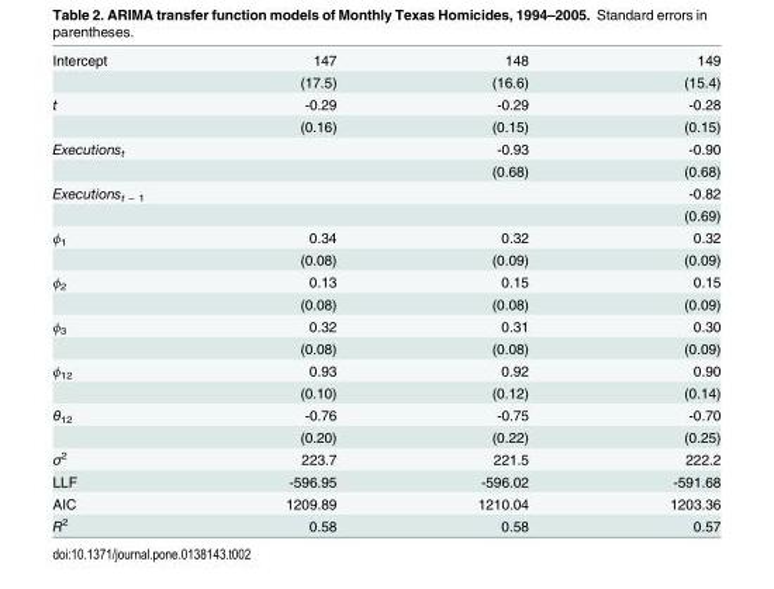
<table><tbody><tr><td rowspan="2">Intercept</td><td>147</td><td>148</td><td>149</td></tr><tr><td>(17.5)</td><td>(16.6)</td><td>(15.4)</td></tr><tr><td rowspan="2">t</td><td>-0.29</td><td>-0.29</td><td>-0.28</td></tr><tr><td>(0.16)</td><td>(0.15)</td><td>(0.15)</td></tr><tr><td rowspan="2">Executions<sub>t</sub></td><td></td><td>-0.93</td><td>-0.90</td></tr><tr><td></td><td>(0.68)</td><td>(0.68)</td></tr><tr><td rowspan="2">Executions<sub>t − 1</sub></td><td></td><td></td><td>-0.82</td></tr><tr><td></td><td></td><td>(0.69)</td></tr><tr><td rowspan="2">ϕ<sub>1</sub></td><td>0.34</td><td>0.32</td><td>0.32</td></tr><tr><td>(0.08)</td><td>(0.09)</td><td>(0.09)</td></tr><tr><td rowspan="2">ϕ<sub>2</sub></td><td>0.13</td><td>0.15</td><td>0.15</td></tr><tr><td>(0.08)</td><td>(0.08)</td><td>(0.09)</td></tr><tr><td rowspan="2">ϕ<sub>3</sub></td><td>0.32</td><td>0.31</td><td>0.30</td></tr><tr><td>(0.08)</td><td>(0.08)</td><td>(0.09)</td></tr><tr><td rowspan="2">ϕ<sub>12</sub></td><td>0.93</td><td>0.92</td><td>0.90</td></tr><tr><td>(0.10)</td><td>(0.12)</td><td>(0.14)</td></tr><tr><td rowspan="2">θ<sub>12</sub></td><td>-0.76</td><td>-0.75</td><td>-0.70</td></tr><tr><td>(0.20)</td><td>(0.22)</td><td>(0.25)</td></tr><tr><td>σ<sup>2</sup></td><td>223.7</td><td>221.5</td><td>222.2</td></tr><tr><td>LLF</td><td>-596.95</td><td>-596.02</td><td>-591.68</td></tr><tr><td>AIC</td><td>1209.89</td><td>1210.04</td><td>1203.36</td></tr><tr><td>R<sup>2</sup></td><td>0.58</td><td>0.58</td><td>0.57</td></tr></tbody></table>